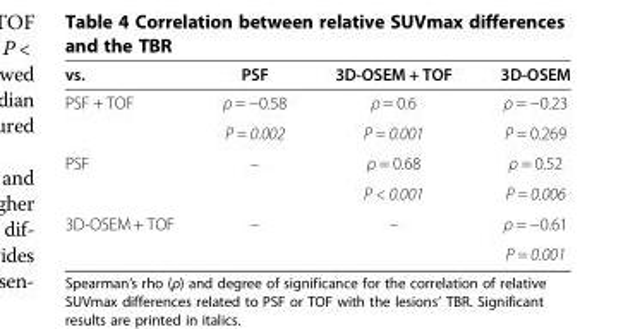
<table><thead><tr><td>vs.</td><td>PSF</td><td>3D-OSEM + TOF</td><td>3D-OSEM</td></tr></thead><tbody><tr><td rowspan="2">PSF + TOF</td><td>ρ = −0.58</td><td>ρ = 0.6</td><td>ρ = −0.23</td></tr><tr><td>P = 0.002</td><td>P = 0.001</td><td>P = 0.269</td></tr><tr><td rowspan="2">PSF</td><td rowspan="2">–</td><td>ρ = 0.68</td><td>ρ = 0.52</td></tr><tr><td>P &lt; 0.001</td><td>P = 0.006</td></tr><tr><td rowspan="2">3D-OSEM + TOF</td><td rowspan="2">–</td><td rowspan="2">–</td><td>ρ = −0.61</td></tr><tr><td>P = 0.001</td></tr></tbody></table>